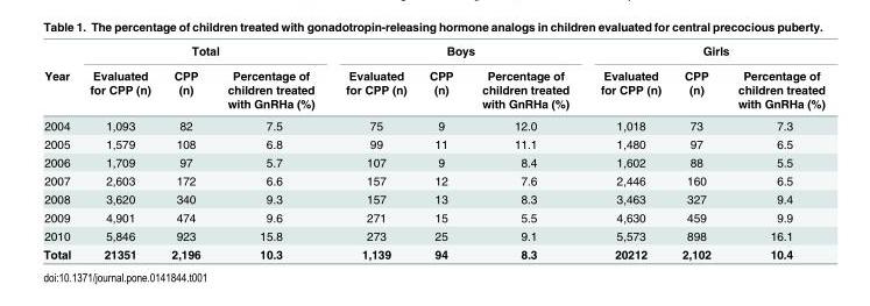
<table><thead><tr><td rowspan="2">Year</td><td colspan="3">Total</td><td colspan="3">Boys</td><td colspan="3">Girls</td></tr><tr><td>Evaluated for CPP (n)</td><td>CPP (n)</td><td>Percentage of children treated with GnRHa (%)</td><td>Evaluated for CPP (n)</td><td>CPP (n)</td><td>Percentage of children treated with GnRHa (%)</td><td>Evaluated for CPP (n)</td><td>CPP (n)</td><td>Percentage of children treated with GnRHa (%)</td></tr></thead><tbody><tr><td>2004</td><td>1,093</td><td>82</td><td>7.5</td><td>75</td><td>9</td><td>12.0</td><td>1,018</td><td>73</td><td>7.3</td></tr><tr><td>2005</td><td>1,579</td><td>108</td><td>6.8</td><td>99</td><td>11</td><td>11.1</td><td>1,480</td><td>97</td><td>6.5</td></tr><tr><td>2006</td><td>1,709</td><td>97</td><td>5.7</td><td>107</td><td>9</td><td>8.4</td><td>1,602</td><td>88</td><td>5.5</td></tr><tr><td>2007</td><td>2,603</td><td>172</td><td>6.6</td><td>157</td><td>12</td><td>7.6</td><td>2,446</td><td>160</td><td>6.5</td></tr><tr><td>2008</td><td>3,620</td><td>340</td><td>9.3</td><td>157</td><td>13</td><td>8.3</td><td>3,463</td><td>327</td><td>9.4</td></tr><tr><td>2009</td><td>4,901</td><td>474</td><td>9.6</td><td>271</td><td>15</td><td>5.5</td><td>4,630</td><td>459</td><td>9.9</td></tr><tr><td>2010</td><td>5,846</td><td>923</td><td>15.8</td><td>273</td><td>25</td><td>9.1</td><td>5,573</td><td>898</td><td>16.1</td></tr><tr><td>Total</td><td>21351</td><td>2,196</td><td>10.3</td><td>1,139</td><td>94</td><td>8.3</td><td>20212</td><td>2,102</td><td>10.4</td></tr></tbody></table>